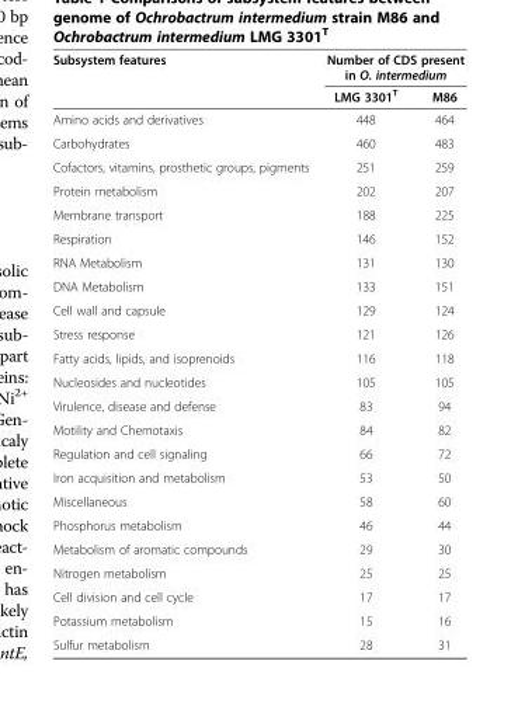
<table><thead><tr><td rowspan="2">Subsystem features</td><td colspan="2">Number of CDS present in O. intermedium</td></tr><tr><td>LMG 3301<sup>T</sup></td><td>M86</td></tr></thead><tbody><tr><td>Amino acids and derivatives</td><td>448</td><td>464</td></tr><tr><td>Carbohydrates</td><td>460</td><td>483</td></tr><tr><td>Cofactors, vitamins, prosthetic groups, pigments</td><td>251</td><td>259</td></tr><tr><td>Protein metabolism</td><td>202</td><td>207</td></tr><tr><td>Membrane transport</td><td>188</td><td>225</td></tr><tr><td>Respiration</td><td>146</td><td>152</td></tr><tr><td>RNA Metabolism</td><td>131</td><td>130</td></tr><tr><td>DNA Metabolism</td><td>133</td><td>151</td></tr><tr><td>Cell wall and capsule</td><td>129</td><td>124</td></tr><tr><td>Stress response</td><td>121</td><td>126</td></tr><tr><td>Fatty acids, lipids, and isoprenoids</td><td>116</td><td>118</td></tr><tr><td>Nucleosides and nucleotides</td><td>105</td><td>105</td></tr><tr><td>Virulence, disease and defense</td><td>83</td><td>94</td></tr><tr><td>Motility and Chemotaxis</td><td>84</td><td>82</td></tr><tr><td>Regulation and cell signaling</td><td>66</td><td>72</td></tr><tr><td>Iron acquisition and metabolism</td><td>53</td><td>50</td></tr><tr><td>Miscellaneous</td><td>58</td><td>60</td></tr><tr><td>Phosphorus metabolism</td><td>46</td><td>44</td></tr><tr><td>Metabolism of aromatic compounds</td><td>29</td><td>30</td></tr><tr><td>Nitrogen metabolism</td><td>25</td><td>25</td></tr><tr><td>Cell division and cell cycle</td><td>17</td><td>17</td></tr><tr><td>Potassium metabolism</td><td>15</td><td>16</td></tr><tr><td>Sulfur metabolism</td><td>28</td><td>31</td></tr></tbody></table>